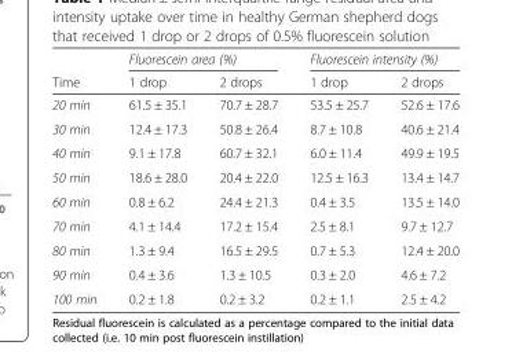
<table><thead><tr><td rowspan="2">Time</td><td colspan="2">Fluorescein area (%)</td><td colspan="2">Fluorescein intensity (%)</td></tr><tr><td>1 drop</td><td>2 drops</td><td>1 drop</td><td>2 drops</td></tr></thead><tbody><tr><td>20 min</td><td>61.5 ± 35.1</td><td>70.7 ± 28.7</td><td>53.5 ± 25.7</td><td>52.6 ± 17.6</td></tr><tr><td>30 min</td><td>12.4 ± 17.3</td><td>50.8 ± 26.4</td><td>8.7 ± 10.8</td><td>40.6 ± 21.4</td></tr><tr><td>40 min</td><td>9.1 ± 17.8</td><td>60.7 ± 32.1</td><td>6.0 ± 11.4</td><td>49.9 ± 19.5</td></tr><tr><td>50 min</td><td>18.6 ± 28.0</td><td>20.4 ± 22.0</td><td>12.5 ± 16.3</td><td>13.4 ± 14.7</td></tr><tr><td>60 min</td><td>0.8 ± 6.2</td><td>24.4 ± 21.3</td><td>0.4 ± 3.5</td><td>13.5 ± 14.0</td></tr><tr><td>70 min</td><td>4.1 ± 14.4</td><td>17.2 ± 15.4</td><td>2.5 ± 8.1</td><td>9.7 ± 12.7</td></tr><tr><td>80 min</td><td>1.3 ± 9.4</td><td>16.5 ± 29.5</td><td>0.7 ± 5.3</td><td>12.4 ± 20.0</td></tr><tr><td>90 min</td><td>0.4 ± 3.6</td><td>1.3 ± 10.5</td><td>0.3 ± 2.0</td><td>4.6 ± 7.2</td></tr><tr><td>100 min</td><td>0.2 ± 1.8</td><td>0.2 ± 3.2</td><td>0.2 ± 1.1</td><td>2.5 ± 4.2</td></tr></tbody></table>